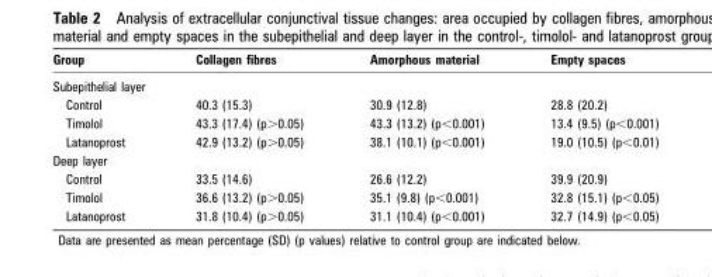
<table><thead><tr><td>Group</td><td>Collagen fibres</td><td>Amorphous material</td><td>Empty spaces</td></tr></thead><tbody><tr><td colspan="4">Subepithelial layer</td></tr><tr><td>Control</td><td>40.3 (15.3)</td><td>30.9 (12.8)</td><td>28.8 (20.2)</td></tr><tr><td>Timolol</td><td>43.3 (17.4) (p&gt;0.05)</td><td>43.3 (13.2) (p&lt;0.001)</td><td>13.4 (9.5) (p&lt;0.001)</td></tr><tr><td>Latanoprost</td><td>42.9 (13.2) (p&gt;0.05)</td><td>38.1 (10.1) (p&lt;0.001)</td><td>19.0 (10.5) (p&lt;0.01)</td></tr><tr><td colspan="4">Deep layer</td></tr><tr><td>Control</td><td>33.5 (14.6)</td><td>26.6 (12.2)</td><td>39.9 (20.9)</td></tr><tr><td>Timolol</td><td>36.6 (13.2) (p&gt;0.05)</td><td>35.1 (9.8) (p&lt;0.001)</td><td>32.8 (15.1) (p&lt;0.05)</td></tr><tr><td>Latanoprost</td><td>31.8 (10.4) (p&gt;0.05)</td><td>31.1 (10.4) (p&lt;0.001)</td><td>32.7 (14.9) (p&lt;0.05)</td></tr></tbody></table>